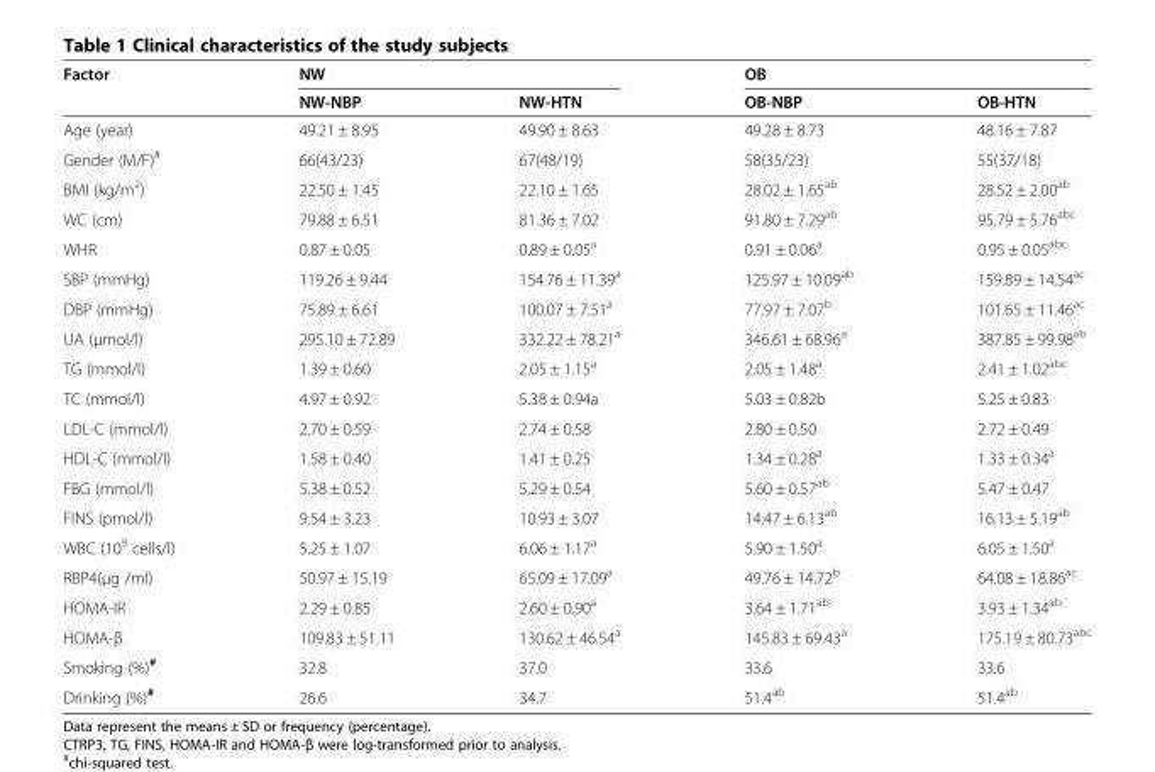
<table><thead><tr><td rowspan="2">Factor</td><td colspan="2">NW</td><td colspan="2">OB</td></tr><tr><td>NW-NBP</td><td>NW-HTN</td><td>OB-NBP</td><td>OB-HTN</td></tr></thead><tbody><tr><td>Age (year)</td><td>49.21 ± 8.95</td><td>49.90 ± 8.63</td><td>49.28 ± 8.73</td><td>48.16 ± 7.87</td></tr><tr><td>Gender (M/F)<sup>#</sup></td><td>66(43/23)</td><td>67(48/19)</td><td>58(35/23)</td><td>55(37/18)</td></tr><tr><td>BMI (kg/m<sup>2</sup>)</td><td>22.50 ± 1.45</td><td>22.10 ± 1.65</td><td>28.02 ± 1.65<sup>ab</sup></td><td>28.52 ± 2.00<sup>ab</sup></td></tr><tr><td>WC (cm)</td><td>79.88 ± 6.51</td><td>81.36 ± 7.02</td><td>91.80 ± 7.29<sup>ab</sup></td><td>95.79 ± 5.76<sup>abc</sup></td></tr><tr><td>WHR</td><td>0.87 ± 0.05</td><td>0.89 ± 0.05<sup>a</sup></td><td>0.91 ± 0.06<sup>a</sup></td><td>0.95 ± 0.05<sup>abc</sup></td></tr><tr><td>SBP (mmHg)</td><td>119.26 ± 9.44</td><td>154.76 ± 11.39<sup>a</sup></td><td>125.97 ± 10.09<sup>ab</sup></td><td>159.89 ± 14.54<sup>ac</sup></td></tr><tr><td>DBP (mmHg)</td><td>75.89 ± 6.61</td><td>100.07 ± 7.51<sup>a</sup></td><td>77.97 ± 7.07<sup>b</sup></td><td>101.65 ± 11.46<sup>ac</sup></td></tr><tr><td>UA (μmol/l)</td><td>295.10 ± 72.89</td><td>332.22 ± 78.21<sup>a</sup></td><td>346.61 ± 68.96<sup>a</sup></td><td>387.85 ± 99.98<sup>ab</sup></td></tr><tr><td>TG (mmol/l)</td><td>1.39 ± 0.60</td><td>2.05 ± 1.15<sup>a</sup></td><td>2.05 ± 1.48<sup>a</sup></td><td>2.41 ± 1.02<sup>abc</sup></td></tr><tr><td>TC (mmol/l)</td><td>4.97 ± 0.92</td><td>5.38 ± 0.94a</td><td>5.03 ± 0.82b</td><td>5.25 ± 0.83</td></tr><tr><td>LDL-C (mmol/l)</td><td>2.70 ± 0.59</td><td>2.74 ± 0.58</td><td>2.80 ± 0.50</td><td>2.72 ± 0.49</td></tr><tr><td>HDL-C (mmol/l)</td><td>1.58 ± 0.40</td><td>1.41 ± 0.25</td><td>1.34 ± 0.28<sup>a</sup></td><td>1.33 ± 0.34<sup>a</sup></td></tr><tr><td>FBG (mmol/l)</td><td>5.38 ± 0.52</td><td>5.29 ± 0.54</td><td>5.60 ± 0.57<sup>ab</sup></td><td>5.47 ± 0.47</td></tr><tr><td>FINS (pmol/l)</td><td>9.54 ± 3.23</td><td>10.93 ± 3.07</td><td>14.47 ± 6.13<sup>ab</sup></td><td>16.13 ± 5.19<sup>ab</sup></td></tr><tr><td>WBC (10<sup>9</sup> cells/l)</td><td>5.25 ± 1.07</td><td>6.06 ± 1.17<sup>a</sup></td><td>5.90 ± 1.50<sup>a</sup></td><td>6.05 ± 1.50<sup>a</sup></td></tr><tr><td>RBP4(μg /ml)</td><td>50.97 ± 15.19</td><td>65.09 ± 17.09<sup>a</sup></td><td>49.76 ± 14.72<sup>b</sup></td><td>64.08 ± 18.86<sup>ac</sup></td></tr><tr><td>HOMA-IR</td><td>2.29 ± 0.85</td><td>2.60 ± 0.90<sup>a</sup></td><td>3.64 ± 1.71<sup>ab</sup></td><td>3.93 ± 1.34<sup>ab</sup></td></tr><tr><td>HOMA-β</td><td>109.83 ± 51.11</td><td>130.62 ± 46.54<sup>a</sup></td><td>145.83 ± 69.43<sup>a</sup></td><td>175.19 ± 80.73<sup>abc</sup></td></tr><tr><td>Smoking (%)<sup>#</sup></td><td>32.8</td><td>37.0</td><td>33.6</td><td>33.6</td></tr><tr><td>Drinking (%)<sup>#</sup></td><td>26.6</td><td>34.7</td><td>51.4<sup>ab</sup></td><td>51.4<sup>ab</sup></td></tr></tbody></table>